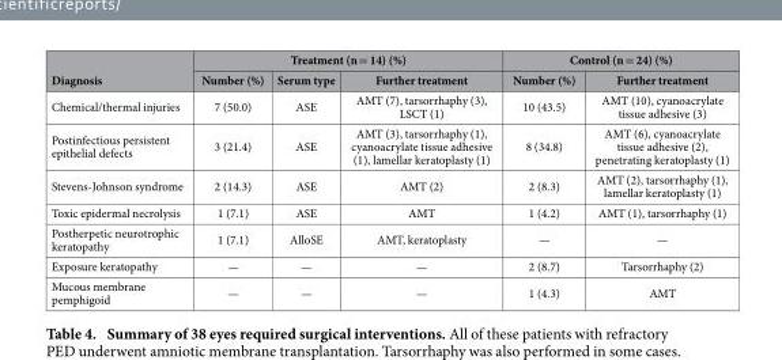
<table><thead><tr><td rowspan="2">Diagnosis</td><td colspan="3">Treatment (n = 14) (%)</td><td colspan="2">Control (n = 24) (%)</td></tr><tr><td>Number (%)</td><td>Serum type</td><td>Further treatment</td><td>Number (%)</td><td>Further treatment</td></tr></thead><tbody><tr><td>Chemical/thermal injuries</td><td>7 (50.0)</td><td>ASE</td><td>AMT (7), tarsorrhaphy (3), LSCT (1)</td><td>10 (43.5)</td><td>AMT (10), cyanoacrylate tissue adhesive (3)</td></tr><tr><td>Postinfectious persistent epithelial defects</td><td>3 (21.4)</td><td>ASE</td><td>AMT (3), tarsorrhaphy (1), cyanoacrylate tissue adhesive (1), lamellar keratoplasty (1)</td><td>8 (34.8)</td><td>AMT (6), cyanoacrylate tissue adhesive (2), penetrating keratoplasty (1)</td></tr><tr><td>Stevens-Johnson syndrome</td><td>2 (14.3)</td><td>ASE</td><td>AMT (2)</td><td>2 (8.3)</td><td>AMT (2), tarsorrhaphy (1), lamellar keratoplasty (1)</td></tr><tr><td>Toxic epidermal necrolysis</td><td>1 (7.1)</td><td>ASE</td><td>AMT</td><td>1 (4.2)</td><td>AMT (1), tarsorrhaphy (1)</td></tr><tr><td>Postherpetic neurotrophic keratopathy</td><td>1 (7.1)</td><td>AlloSE</td><td>AMT, keratoplasty</td><td>—</td><td>—</td></tr><tr><td>Exposure keratopathy</td><td>—</td><td>—</td><td>—</td><td>2 (8.7)</td><td>Tarsorrhaphy (2)</td></tr><tr><td>Mucous membrane pemphigoid</td><td>—</td><td>—</td><td>—</td><td>1 (4.3)</td><td>AMT</td></tr></tbody></table>